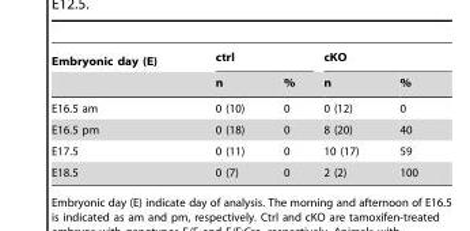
<table><thead><tr><td rowspan="2">Embryonic day (E)</td><td colspan="2">ctrl</td><td colspan="2">cKO</td></tr><tr><td>n</td><td>%</td><td>n</td><td>%</td></tr></thead><tbody><tr><td>E16.5 am</td><td>0 (10)</td><td>0</td><td>0 (12)</td><td>0</td></tr><tr><td>E16.5 pm</td><td>0 (18)</td><td>0</td><td>8 (20)</td><td>40</td></tr><tr><td>E17.5</td><td>0 (11)</td><td>0</td><td>10 (17)</td><td>59</td></tr><tr><td>E18.5</td><td>0 (7)</td><td>0</td><td>2 (2)</td><td>100</td></tr></tbody></table>